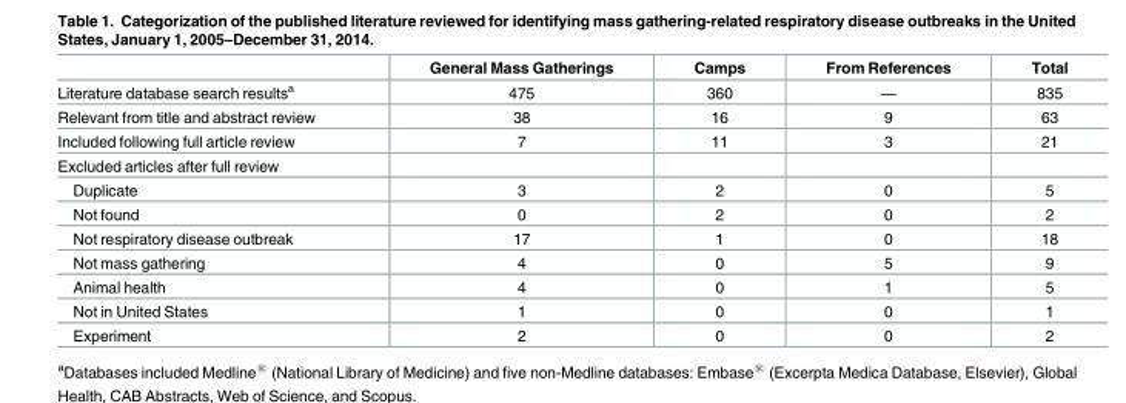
<table><thead><tr><td></td><td>General Mass Gatherings</td><td>Camps</td><td>From References</td><td>Total</td></tr></thead><tbody><tr><td>Literature database search results<sup>a</sup></td><td>475</td><td>360</td><td>—</td><td>835</td></tr><tr><td>Relevant from title and abstract review</td><td>38</td><td>16</td><td>9</td><td>63</td></tr><tr><td>Included following full article review</td><td>7</td><td>11</td><td>3</td><td>21</td></tr><tr><td colspan="5">Excluded articles after full review</td></tr><tr><td>Duplicate</td><td>3</td><td>2</td><td>0</td><td>5</td></tr><tr><td>Not found</td><td>0</td><td>2</td><td>0</td><td>2</td></tr><tr><td>Not respiratory disease outbreak</td><td>17</td><td>1</td><td>0</td><td>18</td></tr><tr><td>Not mass gathering</td><td>4</td><td>0</td><td>5</td><td>9</td></tr><tr><td>Animal health</td><td>4</td><td>0</td><td>1</td><td>5</td></tr><tr><td>Not in United States</td><td>1</td><td>0</td><td>0</td><td>1</td></tr><tr><td>Experiment</td><td>2</td><td>0</td><td>0</td><td>2</td></tr></tbody></table>